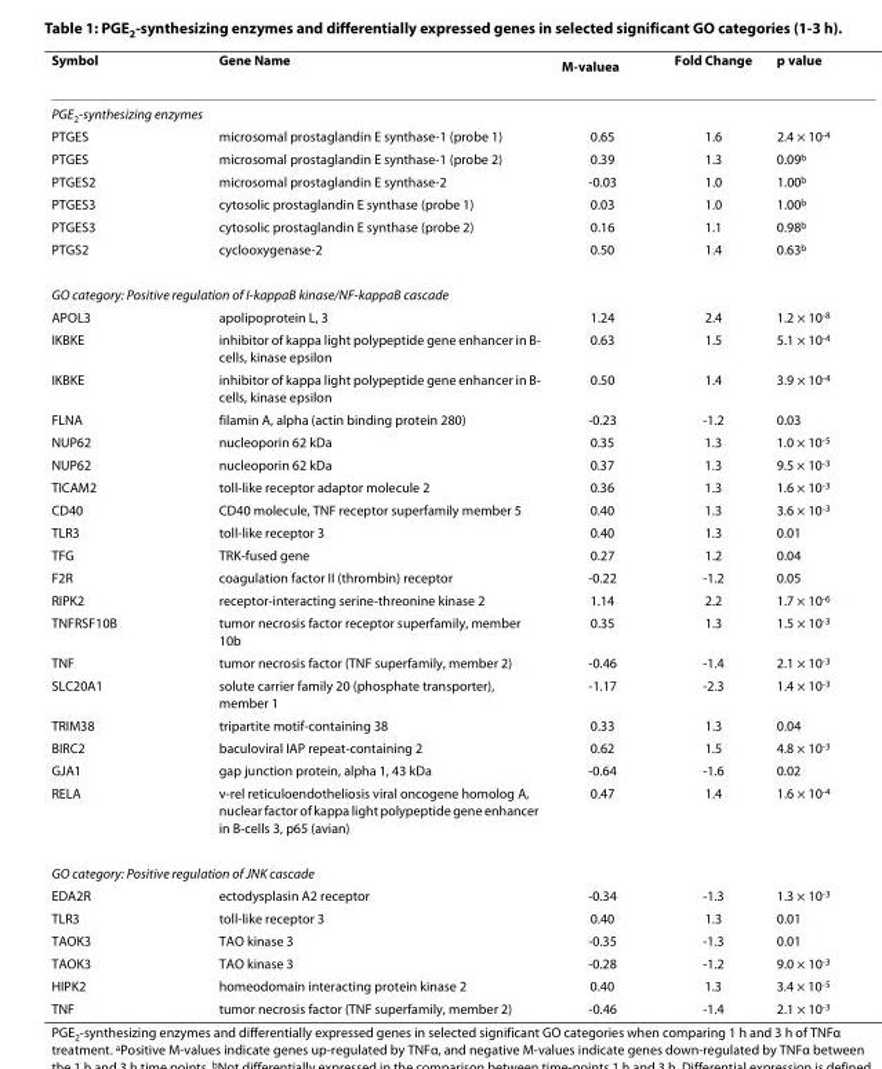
<table><thead><tr><td>Symbol</td><td>Gene Name</td><td>M-value<sup>a</sup></td><td>Fold Change</td><td>p value</td></tr></thead><tbody><tr><td colspan="5">PGE<sub>2</sub>-synthesizing enzymes</td></tr><tr><td>PTGES</td><td>microsomal prostaglandin E synthase-1 (probe 1)</td><td>0.65</td><td>1.6</td><td>2.4 × 10<sup>-4</sup></td></tr><tr><td>PTGES</td><td>microsomal prostaglandin E synthase-1 (probe 2)</td><td>0.39</td><td>1.3</td><td>0.09<sup>b</sup></td></tr><tr><td>PTGES2</td><td>microsomal prostaglandin E synthase-2</td><td>-0.03</td><td>1.0</td><td>1.00<sup>b</sup></td></tr><tr><td>PTGES3</td><td>cytosolic prostaglandin E synthase (probe 1)</td><td>0.03</td><td>1.0</td><td>1.00<sup>b</sup></td></tr><tr><td>PTGES3</td><td>cytosolic prostaglandin E synthase (probe 2)</td><td>0.16</td><td>1.1</td><td>0.98<sup>b</sup></td></tr><tr><td>PTGS2</td><td>cyclooxygenase-2</td><td>0.50</td><td>1.4</td><td>0.63<sup>b</sup></td></tr><tr><td colspan="5">GO category: Positive regulation of I-kappaB kinase/NF-kappaB cascade</td></tr><tr><td>APOL3</td><td>apolipoprotein L, 3</td><td>1.24</td><td>2.4</td><td>1.2 × 10<sup>-8</sup></td></tr><tr><td>IKBKE</td><td>inhibitor of kappa light polypeptide gene enhancer in B- cells, kinase epsilon</td><td>0.63</td><td>1.5</td><td>5.1 × 10<sup>-4</sup></td></tr><tr><td>IKBKE</td><td>inhibitor of kappa light polypeptide gene enhancer in B- cells, kinase epsilon</td><td>0.50</td><td>1.4</td><td>3.9 × 10<sup>-4</sup></td></tr><tr><td>FLNA</td><td>filamin A, alpha (actin binding protein 280)</td><td>-0.23</td><td>-1.2</td><td>0.03</td></tr><tr><td>NUP62</td><td>nucleoporin 62 kDa</td><td>0.35</td><td>1.3</td><td>1.0 × 10<sup>-5</sup></td></tr><tr><td>NUP62</td><td>nucleoporin 62 kDa</td><td>0.37</td><td>1.3</td><td>9.5 × 10<sup>-3</sup></td></tr><tr><td>TICAM2</td><td>toll-like receptor adaptor molecule 2</td><td>0.36</td><td>1.3</td><td>1.6 × 10<sup>-3</sup></td></tr><tr><td>CD40</td><td>CD40 molecule, TNF receptor superfamily member 5</td><td>0.40</td><td>1.3</td><td>3.6 × 10<sup>-3</sup></td></tr><tr><td>TLR3</td><td>toll-like receptor 3</td><td>0.40</td><td>1.3</td><td>0.01</td></tr><tr><td>TFG</td><td>TRK-fused gene</td><td>0.27</td><td>1.2</td><td>0.04</td></tr><tr><td>F2R</td><td>coagulation factor II (thrombin) receptor</td><td>-0.22</td><td>-1.2</td><td>0.05</td></tr><tr><td>RIPK2</td><td>receptor-interacting serine-threonine kinase 2</td><td>1.14</td><td>2.2</td><td>1.7 × 10<sup>-6</sup></td></tr><tr><td>TNFRSF10B</td><td>tumor necrosis factor receptor superfamily, member 10b</td><td>0.35</td><td>1.3</td><td>1.5 × 10<sup>-3</sup></td></tr><tr><td>TNF</td><td>tumor necrosis factor (TNF superfamily, member 2)</td><td>-0.46</td><td>-1.4</td><td>2.1 × 10<sup>-3</sup></td></tr><tr><td>SLC20A1</td><td>solute carrier family 20 (phosphate transporter), member 1</td><td>-1.17</td><td>-2.3</td><td>1.4 × 10<sup>-3</sup></td></tr><tr><td>TRIM38</td><td>tripartite motif-containing 38</td><td>0.33</td><td>1.3</td><td>0.04</td></tr><tr><td>BIRC2</td><td>baculoviral IAP repeat-containing 2</td><td>0.62</td><td>1.5</td><td>4.8 × 10<sup>-3</sup></td></tr><tr><td>GJA1</td><td>gap junction protein, alpha 1, 43 kDa</td><td>-0.64</td><td>-1.6</td><td>0.02</td></tr><tr><td>RELA</td><td>v-rel reticuloendotheliosis viral oncogene homolog A, nuclear factor of kappa light polypeptide gene enhancer in B-cells 3, p65 (avian)</td><td>0.47</td><td>1.4</td><td>1.6 × 10<sup>-4</sup></td></tr><tr><td colspan="5">GO category: Positive regulation of JNK cascade</td></tr><tr><td>EDA2R</td><td>ectodysplasin A2 receptor</td><td>-0.34</td><td>-1.3</td><td>1.3 × 10<sup>-3</sup></td></tr><tr><td>TLR3</td><td>toll-like receptor 3</td><td>0.40</td><td>1.3</td><td>0.01</td></tr><tr><td>TAOK3</td><td>TAO kinase 3</td><td>-0.35</td><td>-1.3</td><td>0.01</td></tr><tr><td>TAOK3</td><td>TAO kinase 3</td><td>-0.28</td><td>-1.2</td><td>9.0 × 10<sup>-3</sup></td></tr><tr><td>HIPK2</td><td>homeodomain interacting protein kinase 2</td><td>0.40</td><td>1.3</td><td>3.4 × 10<sup>-5</sup></td></tr><tr><td>TNF</td><td>tumor necrosis factor (TNF superfamily, member 2)</td><td>-0.46</td><td>-1.4</td><td>2.1 × 10<sup>-3</sup></td></tr></tbody></table>